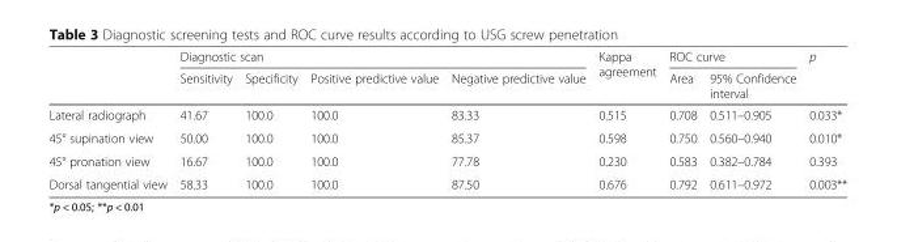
<table><thead><tr><td rowspan="2"></td><td colspan="4">Diagnostic scan</td><td rowspan="2">Kappa agreement</td><td colspan="2">ROC curve</td><td rowspan="2">p</td></tr><tr><td>Sensitivity</td><td>Specificity</td><td>Positive predictive value</td><td>Negative predictive value</td><td>Area</td><td>95% Confidence interval</td></tr></thead><tbody><tr><td>Lateral radiograph</td><td>41.67</td><td>100.0</td><td>100.0</td><td>83.33</td><td>0.515</td><td>0.708</td><td>0.511–0.905</td><td>0.033*</td></tr><tr><td>45° supination view</td><td>50.00</td><td>100.0</td><td>100.0</td><td>85.37</td><td>0.598</td><td>0.750</td><td>0.560–0.940</td><td>0.010*</td></tr><tr><td>45° pronation view</td><td>16.67</td><td>100.0</td><td>100.0</td><td>77.78</td><td>0.230</td><td>0.583</td><td>0.382–0.784</td><td>0.393</td></tr><tr><td>Dorsal tangential view</td><td>58.33</td><td>100.0</td><td>100.0</td><td>87.50</td><td>0.676</td><td>0.792</td><td>0.611–0.972</td><td>0.003**</td></tr></tbody></table>